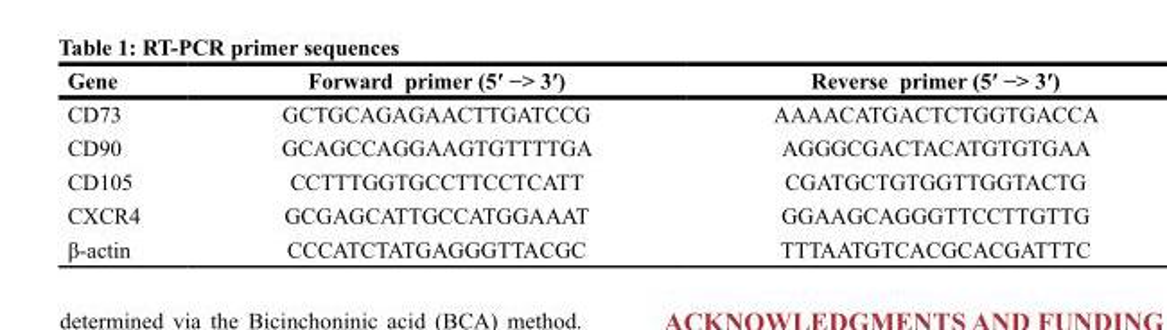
<table><thead><tr><td>Gene</td><td>Forward primer (5′ −&gt; 3′)</td><td>Reverse primer (5′ −&gt; 3′)</td></tr></thead><tbody><tr><td>CD73</td><td>GCTGCAGAGAACTTGATCCG</td><td>AAAACATGACTCTGGTGACCA</td></tr><tr><td>CD90</td><td>GCAGCCAGGAAGTGTTTTGA</td><td>AGGGCGACTACATGTGTGAA</td></tr><tr><td>CD105</td><td>CCTTTGGTGCCTTCCTCATT</td><td>CGATGCTGTGGTTGGTACTG</td></tr><tr><td>CXCR4</td><td>GCGAGCATTGCCATGGAAAT</td><td>GGAAGCAGGGTTCCTTGTTG</td></tr><tr><td>β-actin</td><td>CCCATCTATGAGGGTTACGC</td><td>TTTAATGTCACGCACGATTTC</td></tr></tbody></table>